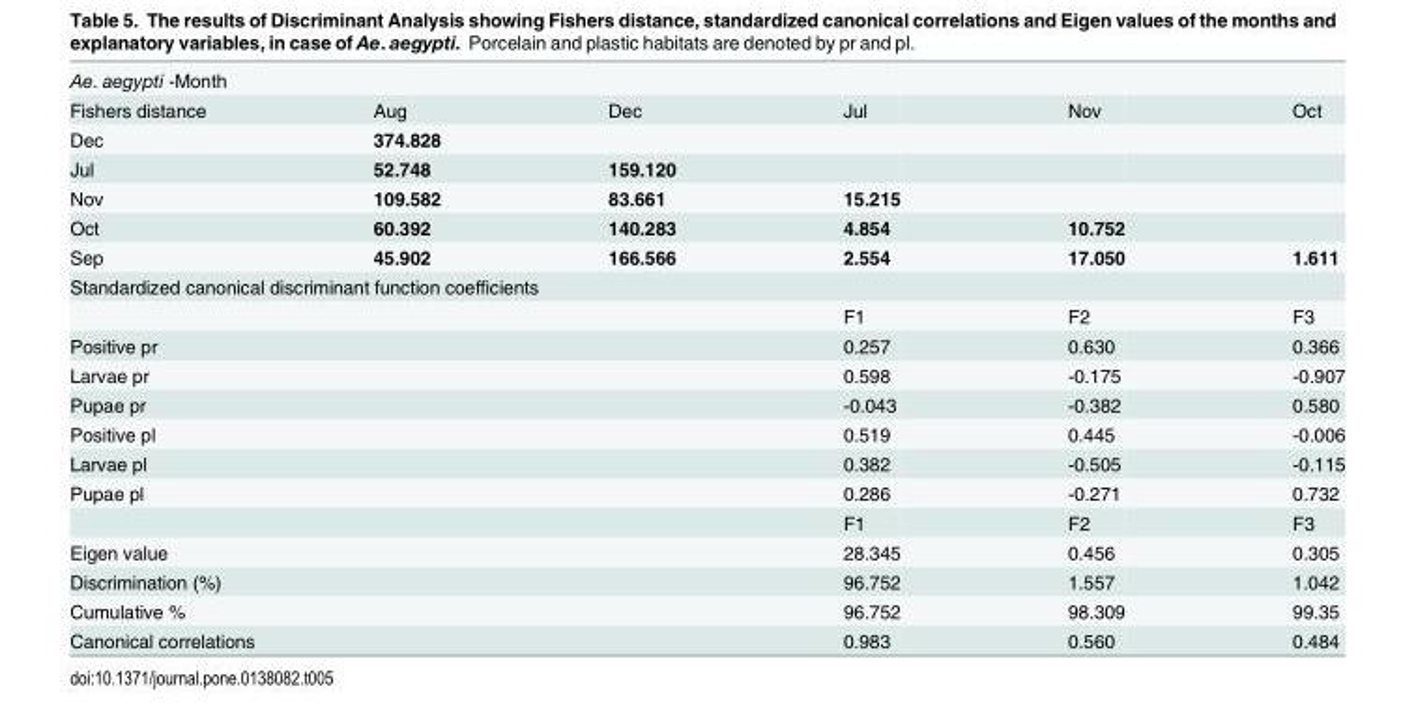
<table><tbody><tr><td colspan="6">Ae. aegypti -Month</td></tr><tr><td>Fishers distance</td><td>Aug</td><td>Dec</td><td>Jul</td><td>Nov</td><td>Oct</td></tr><tr><td>Dec</td><td>374.828</td><td></td><td></td><td></td><td></td></tr><tr><td>Jul</td><td>52.748</td><td>159.120</td><td></td><td></td><td></td></tr><tr><td>Nov</td><td>109.582</td><td>83.661</td><td>15.215</td><td></td><td></td></tr><tr><td>Oct</td><td>60.392</td><td>140.283</td><td>4.854</td><td>10.752</td><td></td></tr><tr><td>Sep</td><td>45.902</td><td>166.566</td><td>2.554</td><td>17.050</td><td>1.611</td></tr><tr><td colspan="6">Standardized canonical discriminant function coefficients</td></tr><tr><td colspan="3"></td><td>F1</td><td>F2</td><td>F3</td></tr><tr><td colspan="3">Positive pr</td><td>0.257</td><td>0.630</td><td>0.366</td></tr><tr><td colspan="3">Larvae pr</td><td>0.598</td><td>-0.175</td><td>-0.907</td></tr><tr><td colspan="3">Pupae pr</td><td>-0.043</td><td>-0.382</td><td>0.580</td></tr><tr><td colspan="3">Positive pl</td><td>0.519</td><td>0.445</td><td>-0.006</td></tr><tr><td colspan="3">Larvae pl</td><td>0.382</td><td>-0.505</td><td>-0.115</td></tr><tr><td rowspan="2" colspan="3">Pupae pl</td><td>0.286</td><td>-0.271</td><td>0.732</td></tr><tr><td>F1</td><td>F2</td><td>F3</td></tr><tr><td colspan="3">Eigen value</td><td>28.345</td><td>0.456</td><td>0.305</td></tr><tr><td colspan="3">Discrimination (%)</td><td>96.752</td><td>1.557</td><td>1.042</td></tr><tr><td colspan="3">Cumulative %</td><td>96.752</td><td>98.309</td><td>99.35</td></tr><tr><td colspan="3">Canonical correlations</td><td>0.983</td><td>0.560</td><td>0.484</td></tr></tbody></table>